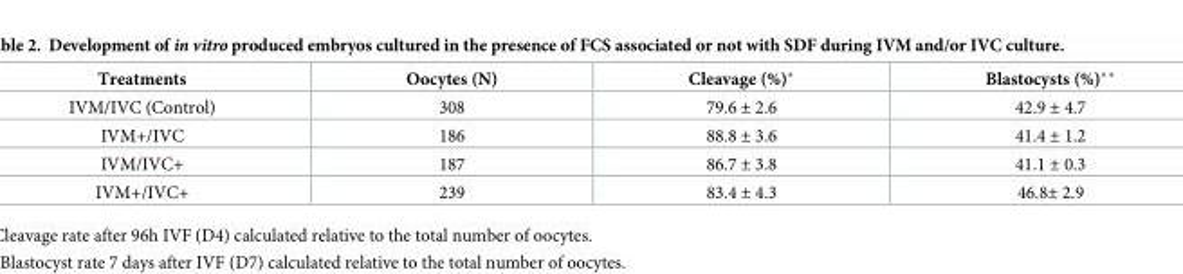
<table><thead><tr><td>Treatments</td><td>Oocytes (N)</td><td>Cleavage (%)*</td><td>Blastocysts (%)**</td></tr></thead><tbody><tr><td>IVM/IVC (Control)</td><td>308</td><td>79.6 ± 2.6</td><td>42.9 ± 4.7</td></tr><tr><td>IVM+/IVC</td><td>186</td><td>88.8 ± 3.6</td><td>41.4 ± 1.2</td></tr><tr><td>IVM/IVC+</td><td>187</td><td>86.7 ± 3.8</td><td>41.1 ± 0.3</td></tr><tr><td>IVM+/IVC+</td><td>239</td><td>83.4 ± 4.3</td><td>46.8± 2.9</td></tr></tbody></table>